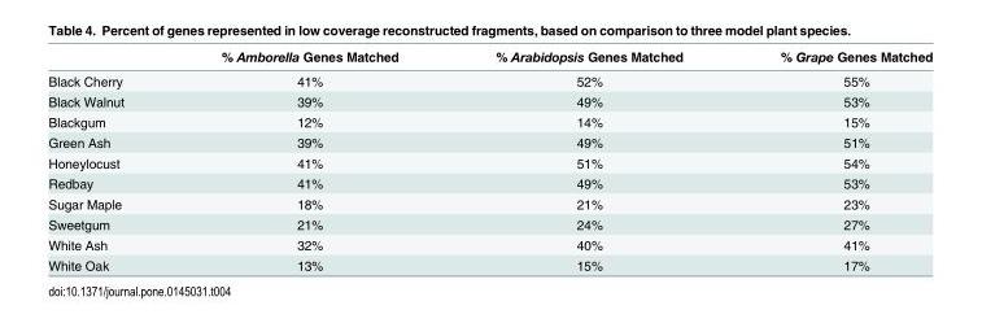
<table><thead><tr><td></td><td>% Amborella Genes Matched</td><td>% Arabidopsis Genes Matched</td><td>% Grape Genes Matched</td></tr></thead><tbody><tr><td>Black Cherry</td><td>41%</td><td>52%</td><td>55%</td></tr><tr><td>Black Walnut</td><td>39%</td><td>49%</td><td>53%</td></tr><tr><td>Blackgum</td><td>12%</td><td>14%</td><td>15%</td></tr><tr><td>Green Ash</td><td>39%</td><td>49%</td><td>51%</td></tr><tr><td>Honeylocust</td><td>41%</td><td>51%</td><td>54%</td></tr><tr><td>Redbay</td><td>41%</td><td>49%</td><td>53%</td></tr><tr><td>Sugar Maple</td><td>18%</td><td>21%</td><td>23%</td></tr><tr><td>Sweetgum</td><td>21%</td><td>24%</td><td>27%</td></tr><tr><td>White Ash</td><td>32%</td><td>40%</td><td>41%</td></tr><tr><td>White Oak</td><td>13%</td><td>15%</td><td>17%</td></tr></tbody></table>